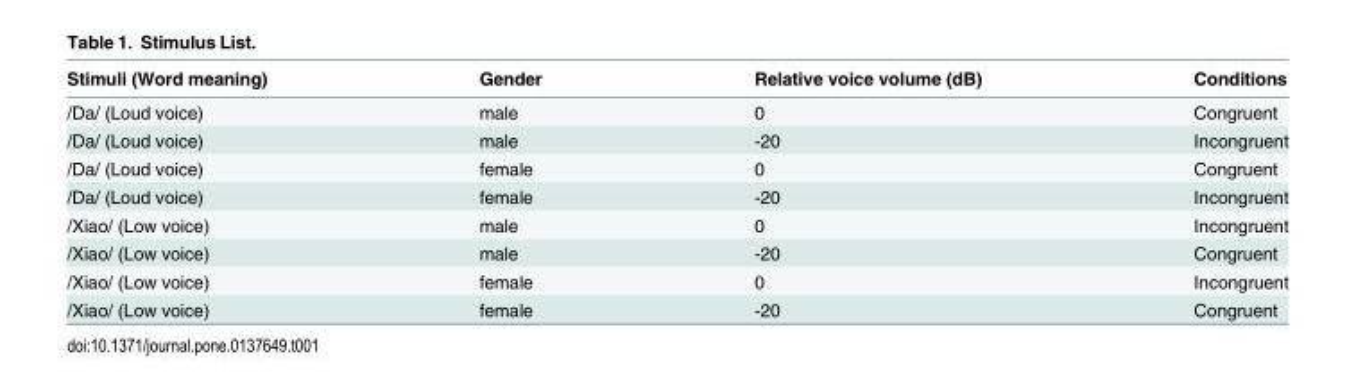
<table><thead><tr><td>Stimuli (Word meaning)</td><td>Gender</td><td>Relative voice volume (dB)</td><td>Conditions</td></tr></thead><tbody><tr><td>/Da/ (Loud voice)</td><td>male</td><td>0</td><td>Congruent</td></tr><tr><td>/Da/ (Loud voice)</td><td>male</td><td>-20</td><td>Incongruent</td></tr><tr><td>/Da/ (Loud voice)</td><td>female</td><td>0</td><td>Congruent</td></tr><tr><td>/Da/ (Loud voice)</td><td>female</td><td>-20</td><td>Incongruent</td></tr><tr><td>/Xiao/ (Low voice)</td><td>male</td><td>0</td><td>Incongruent</td></tr><tr><td>/Xiao/ (Low voice)</td><td>male</td><td>-20</td><td>Congruent</td></tr><tr><td>/Xiao/ (Low voice)</td><td>female</td><td>0</td><td>Incongruent</td></tr><tr><td>/Xiao/ (Low voice)</td><td>female</td><td>-20</td><td>Congruent</td></tr></tbody></table>